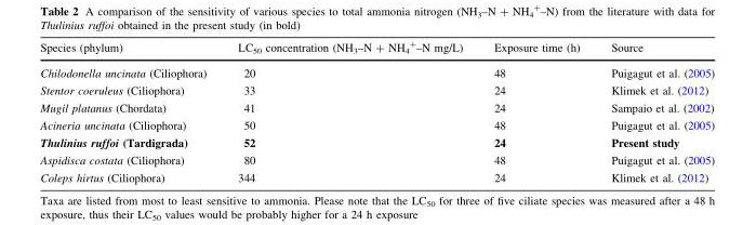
<table><thead><tr><td>Species (phylum)</td><td>LC<sub>50</sub> concentration (NH<sub>3</sub>–N + NH<sub>4</sub> <sup>+</sup>–N mg/L)</td><td>Exposure time (h)</td><td>Source</td></tr></thead><tbody><tr><td>Chilodonella uncinata (Ciliophora)</td><td>20</td><td>48</td><td>Puigagut et al. (2005)</td></tr><tr><td>Stentor coeruleus (Ciliophora)</td><td>33</td><td>24</td><td>Klimek et al. (2012)</td></tr><tr><td>Mugil platanus (Chordata)</td><td>41</td><td>24</td><td>Sampaio et al. (2002)</td></tr><tr><td>Acineria uncinata (Ciliophora)</td><td>50</td><td>48</td><td>Puigagut et al. (2005)</td></tr><tr><td>Thulinius ruffoi (Tardigrada)</td><td>52</td><td>24</td><td>Present study</td></tr><tr><td>Aspidisca costata (Ciliophora)</td><td>80</td><td>48</td><td>Puigagut et al. (2005)</td></tr><tr><td>Coleps hirtus (Ciliophora)</td><td>344</td><td>24</td><td>Klimek et al. (2012)</td></tr></tbody></table>